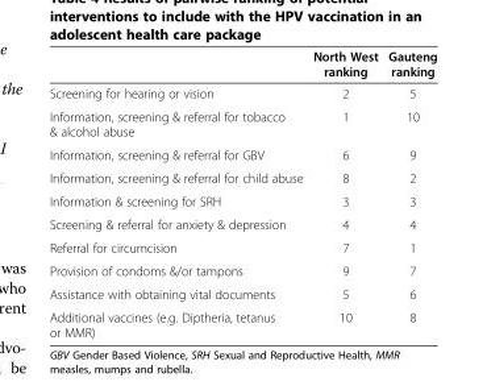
<table><thead><tr><td></td><td>North West ranking</td><td>Gauteng ranking</td></tr></thead><tbody><tr><td>Screening for hearing or vision</td><td>2</td><td>5</td></tr><tr><td>Information, screening &amp; referral for tobacco &amp; alcohol abuse</td><td>1</td><td>10</td></tr><tr><td>Information, screening &amp; referral for GBV</td><td>6</td><td>9</td></tr><tr><td>Information, screening &amp; referral for child abuse</td><td>8</td><td>2</td></tr><tr><td>Information &amp; screening for SRH</td><td>3</td><td>3</td></tr><tr><td>Screening &amp; referral for anxiety &amp; depression</td><td>4</td><td>4</td></tr><tr><td>Referral for circumcision</td><td>7</td><td>1</td></tr><tr><td>Provision of condoms &amp;/or tampons</td><td>9</td><td>7</td></tr><tr><td>Assistance with obtaining vital documents</td><td>5</td><td>6</td></tr><tr><td>Additional vaccines (e.g. Diptheria, tetanus or MMR)</td><td>10</td><td>8</td></tr></tbody></table>